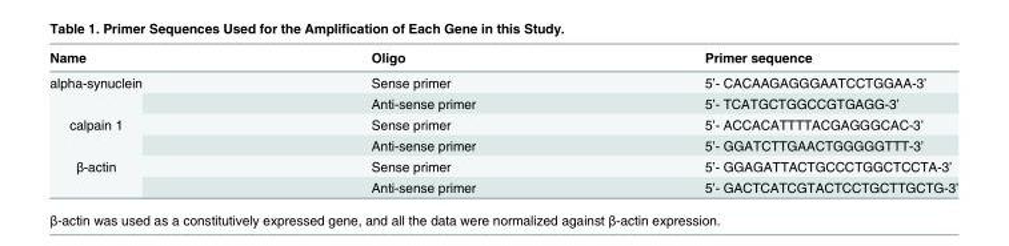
<table><thead><tr><td>Name</td><td>Oligo</td><td>Primer sequence</td></tr></thead><tbody><tr><td rowspan="2">alpha-synuclein</td><td>Sense primer</td><td>5’- CACAAGAGGGAATCCTGGAA-3’</td></tr><tr><td>Anti-sense primer</td><td>5’- TCATGCTGGCCGTGAGG-3’</td></tr><tr><td rowspan="2">calpain 1</td><td>Sense primer</td><td>5’- ACCACATTTTACGAGGGCAC-3’</td></tr><tr><td>Anti-sense primer</td><td>5’- GGATCTTGAACTGGGGGTTT-3’</td></tr><tr><td rowspan="2">β-actin</td><td>Sense primer</td><td>5’- GGAGATTACTGCCCTGGCTCCTA-3’</td></tr><tr><td>Anti-sense primer</td><td>5’- GACTCATCGTACTCCTGCTTGCTG-3’</td></tr></tbody></table>